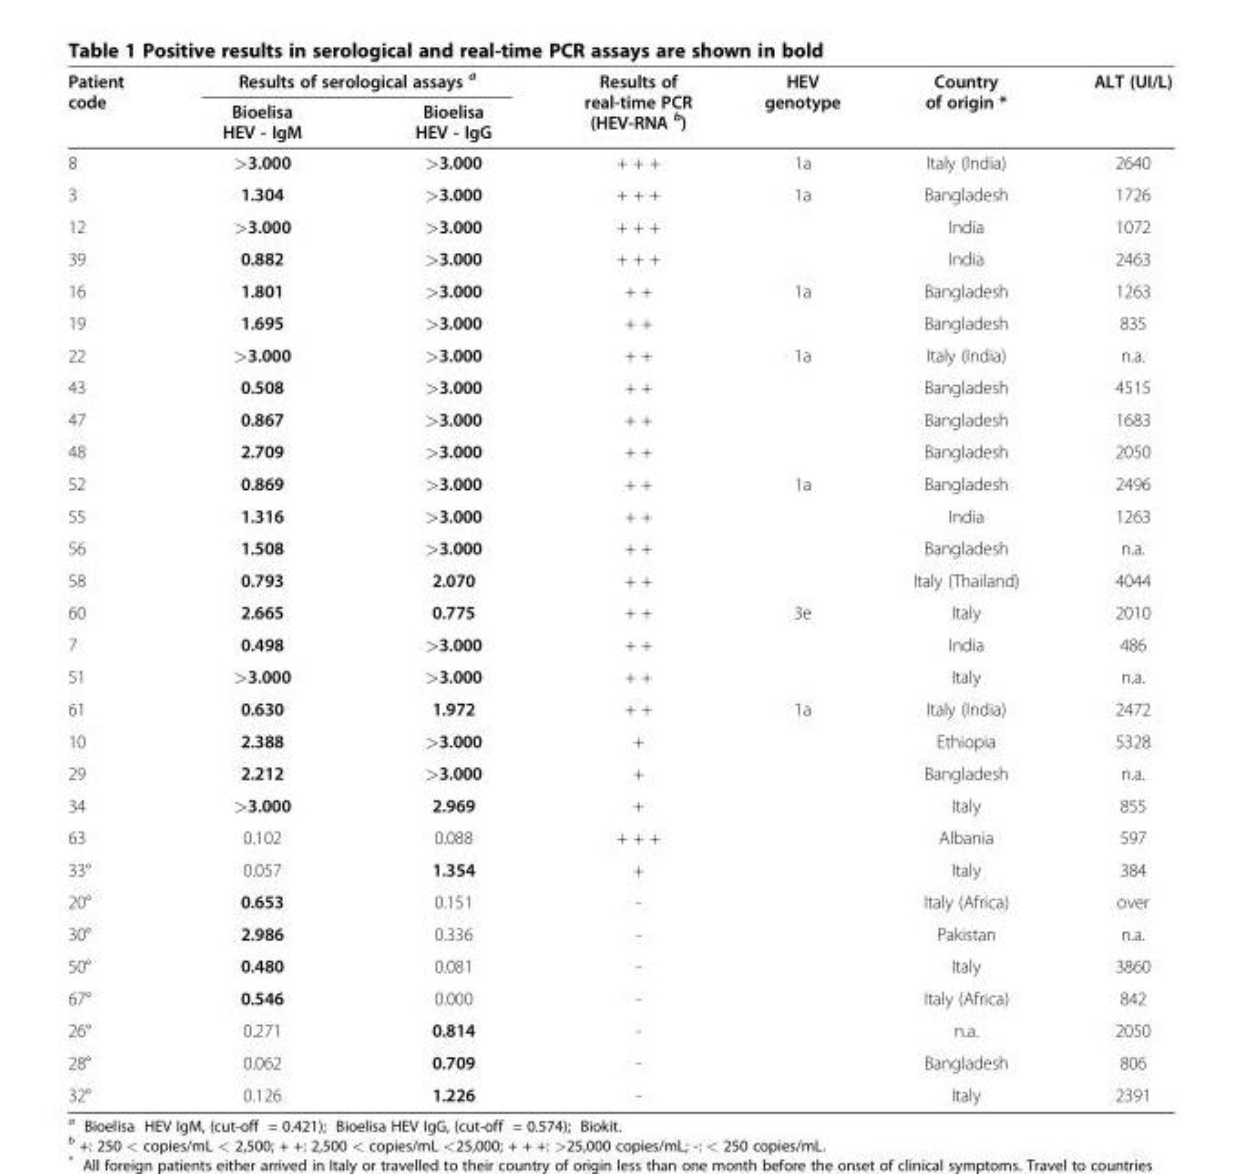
<table><thead><tr><td rowspan="2">Patient code</td><td colspan="2">Results of serological assays <sup>a</sup></td><td rowspan="2">Results of real-time PCR (HEV-RNA <sup>b</sup>)</td><td rowspan="2">HEV genotype</td><td rowspan="2">Country of origin *</td><td rowspan="2">ALT (UI/L)</td></tr><tr><td>Bioelisa HEV - IgM</td><td>Bioelisa HEV - IgG</td></tr></thead><tbody><tr><td>8</td><td>&gt;3.000</td><td>&gt;3.000</td><td>+ + +</td><td>1a</td><td>Italy (India)</td><td>2640</td></tr><tr><td>3</td><td>1.304</td><td>&gt;3.000</td><td>+ + +</td><td>1a</td><td>Bangladesh</td><td>1726</td></tr><tr><td>12</td><td>&gt;3.000</td><td>&gt;3.000</td><td>+ + +</td><td></td><td>India</td><td>1072</td></tr><tr><td>39</td><td>0.882</td><td>&gt;3.000</td><td>+ + +</td><td></td><td>India</td><td>2463</td></tr><tr><td>16</td><td>1.801</td><td>&gt;3.000</td><td>+ +</td><td>1a</td><td>Bangladesh</td><td>1263</td></tr><tr><td>19</td><td>1.695</td><td>&gt;3.000</td><td>+ +</td><td></td><td>Bangladesh</td><td>835</td></tr><tr><td>22</td><td>&gt;3.000</td><td>&gt;3.000</td><td>+ +</td><td>1a</td><td>Italy (India)</td><td>n.a.</td></tr><tr><td>43</td><td>0.508</td><td>&gt;3.000</td><td>+ +</td><td></td><td>Bangladesh</td><td>4515</td></tr><tr><td>47</td><td>0.867</td><td>&gt;3.000</td><td>+ +</td><td></td><td>Bangladesh</td><td>1683</td></tr><tr><td>48</td><td>2.709</td><td>&gt;3.000</td><td>+ +</td><td></td><td>Bangladesh</td><td>2050</td></tr><tr><td>52</td><td>0.869</td><td>&gt;3.000</td><td>+ +</td><td>1a</td><td>Bangladesh</td><td>2496</td></tr><tr><td>55</td><td>1.316</td><td>&gt;3.000</td><td>+ +</td><td></td><td>India</td><td>1263</td></tr><tr><td>56</td><td>1.508</td><td>&gt;3.000</td><td>+ +</td><td></td><td>Bangladesh</td><td>n.a.</td></tr><tr><td>58</td><td>0.793</td><td>2.070</td><td>+ +</td><td></td><td>Italy (Thailand)</td><td>4044</td></tr><tr><td>60</td><td>2.665</td><td>0.775</td><td>+ +</td><td>3e</td><td>Italy</td><td>2010</td></tr><tr><td>7</td><td>0.498</td><td>&gt;3.000</td><td>+ +</td><td></td><td>India</td><td>486</td></tr><tr><td>51</td><td>&gt;3.000</td><td>&gt;3.000</td><td>+ +</td><td></td><td>Italy</td><td>n.a.</td></tr><tr><td>61</td><td>0.630</td><td>1.972</td><td>+ +</td><td>1a</td><td>Italy (India)</td><td>2472</td></tr><tr><td>10</td><td>2.388</td><td>&gt;3.000</td><td>+</td><td></td><td>Ethiopia</td><td>5328</td></tr><tr><td>29</td><td>2.212</td><td>&gt;3.000</td><td>+</td><td></td><td>Bangladesh</td><td>n.a.</td></tr><tr><td>34</td><td>&gt;3.000</td><td>2.969</td><td>+</td><td></td><td>Italy</td><td>855</td></tr><tr><td>63</td><td>0.102</td><td>0.088</td><td>+ + +</td><td></td><td>Albania</td><td>597</td></tr><tr><td>33°</td><td>0.057</td><td>1.354</td><td>+</td><td></td><td>Italy</td><td>384</td></tr><tr><td>20°</td><td>0.653</td><td>0.151</td><td>-</td><td></td><td>Italy (Africa)</td><td>over</td></tr><tr><td>30°</td><td>2.986</td><td>0.336</td><td>-</td><td></td><td>Pakistan</td><td>n.a.</td></tr><tr><td>50°</td><td>0.480</td><td>0.081</td><td>-</td><td></td><td>Italy</td><td>3860</td></tr><tr><td>67°</td><td>0.546</td><td>0.000</td><td>-</td><td></td><td>Italy (Africa)</td><td>842</td></tr><tr><td>26°</td><td>0.271</td><td>0.814</td><td>-</td><td></td><td>n.a.</td><td>2050</td></tr><tr><td>28°</td><td>0.062</td><td>0.709</td><td>-</td><td></td><td>Bangladesh</td><td>806</td></tr><tr><td>32°</td><td>0.126</td><td>1.226</td><td>-</td><td></td><td>Italy</td><td>2391</td></tr></tbody></table>